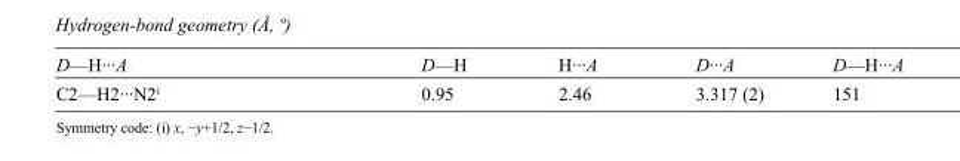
<table><tbody><tr><td>D—H···A</td><td>D—H</td><td>H···A</td><td>D···A</td><td>D—H···A</td></tr><tr><td>C2—H2···N2<sup>i</sup></td><td>0.95</td><td>2.46</td><td>3.317 (2)</td><td>151</td></tr></tbody></table>